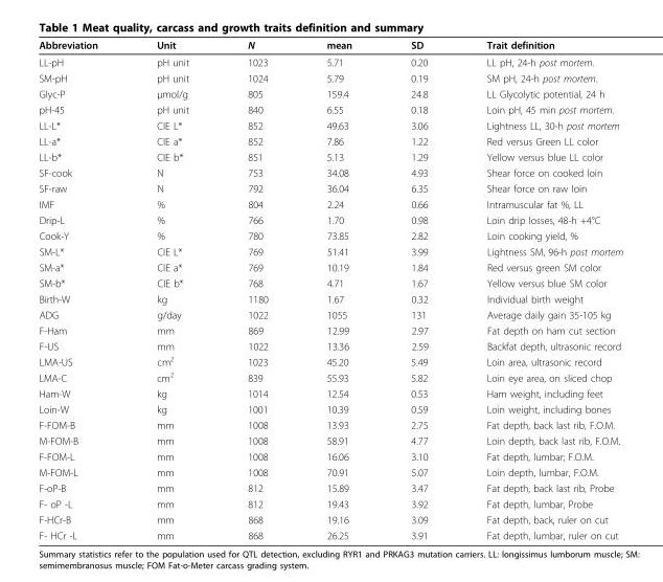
<table><thead><tr><td>Abbreviation</td><td>Unit</td><td>N</td><td>mean</td><td>SD</td><td>Trait definition</td></tr></thead><tbody><tr><td>LL-pH</td><td>pH unit</td><td>1023</td><td>5.71</td><td>0.20</td><td>LL pH, 24-h post mortem.</td></tr><tr><td>SM-pH</td><td>pH unit</td><td>1024</td><td>5.79</td><td>0.19</td><td>SM pH, 24-h post mortem.</td></tr><tr><td>Glyc-P</td><td>μmol/g</td><td>805</td><td>159.4</td><td>24.8</td><td>LL Glycolytic potential, 24 h</td></tr><tr><td>pH-45</td><td>pH unit</td><td>840</td><td>6.55</td><td>0.18</td><td>Loin pH, 45 min post mortem.</td></tr><tr><td>LL-L*</td><td>CIE L*</td><td>852</td><td>49.63</td><td>3.06</td><td>Lightness LL, 30-h post mortem</td></tr><tr><td>LL-a*</td><td>CIE a*</td><td>852</td><td>7.86</td><td>1.22</td><td>Red versus Green LL color</td></tr><tr><td>LL-b*</td><td>CIE b*</td><td>851</td><td>5.13</td><td>1.29</td><td>Yellow versus blue LL color</td></tr><tr><td>SF-cook</td><td>N</td><td>753</td><td>34.08</td><td>4.93</td><td>Shear force on cooked loin</td></tr><tr><td>SF-raw</td><td>N</td><td>792</td><td>36.04</td><td>6.35</td><td>Shear force on raw loin</td></tr><tr><td>IMF</td><td>%</td><td>804</td><td>2.24</td><td>0.66</td><td>Intramuscular fat %, LL</td></tr><tr><td>Drip-L</td><td>%</td><td>766</td><td>1.70</td><td>0.98</td><td>Loin drip losses, 48-h +4°C</td></tr><tr><td>Cook-Y</td><td>%</td><td>780</td><td>73.85</td><td>2.82</td><td>Loin cooking yield, %</td></tr><tr><td>SM-L*</td><td>CIE L*</td><td>769</td><td>51.41</td><td>3.99</td><td>Lightness SM, 96-h post mortem</td></tr><tr><td>SM-a*</td><td>CIE a*</td><td>769</td><td>10.19</td><td>1.84</td><td>Red versus green SM color</td></tr><tr><td>SM-b*</td><td>CIE b*</td><td>768</td><td>4.71</td><td>1.67</td><td>Yellow versus blue SM color</td></tr><tr><td>Birth-W</td><td>kg</td><td>1180</td><td>1.67</td><td>0.32</td><td>Individual birth weight</td></tr><tr><td>ADG</td><td>g/day</td><td>1022</td><td>1055</td><td>131</td><td>Average daily gain 35-105 kg</td></tr><tr><td>F-Ham</td><td>mm</td><td>869</td><td>12.99</td><td>2.97</td><td>Fat depth on ham cut section</td></tr><tr><td>F-US</td><td>mm</td><td>1022</td><td>13.36</td><td>2.59</td><td>Backfat depth, ultrasonic record</td></tr><tr><td>LMA-US</td><td>cm<sup>2</sup></td><td>1023</td><td>45.20</td><td>5.49</td><td>Loin area, ultrasonic record</td></tr><tr><td>LMA-C</td><td>cm<sup>2</sup></td><td>839</td><td>55.93</td><td>5.82</td><td>Loin eye area, on sliced chop</td></tr><tr><td>Ham-W</td><td>kg</td><td>1014</td><td>12.54</td><td>0.53</td><td>Ham weight, including feet</td></tr><tr><td>Loin-W</td><td>kg</td><td>1001</td><td>10.39</td><td>0.59</td><td>Loin weight, including bones</td></tr><tr><td>F-FOM-B</td><td>mm</td><td>1008</td><td>13.93</td><td>2.75</td><td>Fat depth, back last rib, F.O.M.</td></tr><tr><td>M-FOM-B</td><td>mm</td><td>1008</td><td>58.91</td><td>4.77</td><td>Loin depth, back last rib, F.O.M.</td></tr><tr><td>F-FOM-L</td><td>mm</td><td>1008</td><td>16.06</td><td>3.10</td><td>Fat depth, lumbar; F.O.M.</td></tr><tr><td>M-FOM-L</td><td>mm</td><td>1008</td><td>70.91</td><td>5.07</td><td>Loin depth, lumbar, F.O.M.</td></tr><tr><td>F-oP-B</td><td>mm</td><td>812</td><td>15.89</td><td>3.47</td><td>Fat depth, back last rib, Probe</td></tr><tr><td>F- oP -L</td><td>mm</td><td>812</td><td>19.43</td><td>3.92</td><td>Fat depth, lumbar, Probe</td></tr><tr><td>F-HCr-B</td><td>mm</td><td>868</td><td>19.16</td><td>3.09</td><td>Fat depth, back, ruler on cut</td></tr><tr><td>F- HCr -L</td><td>mm</td><td>868</td><td>26.25</td><td>3.91</td><td>Fat depth, lumbar, ruler on cut</td></tr></tbody></table>